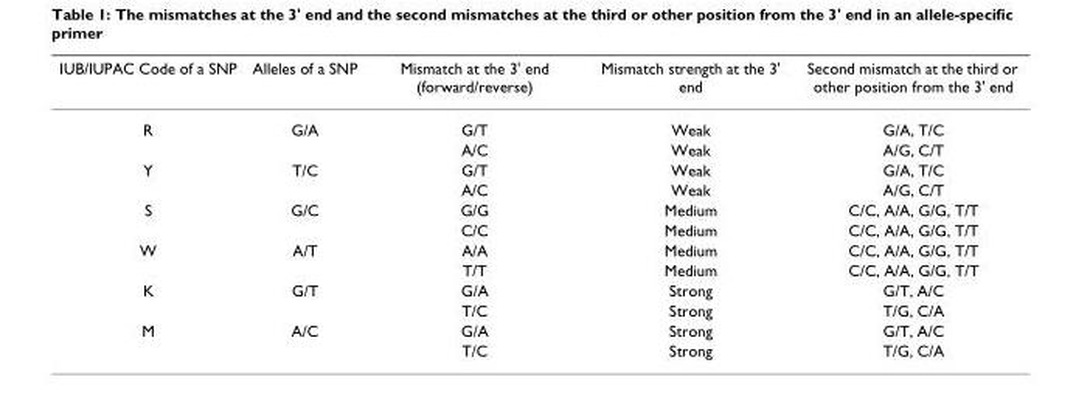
<table><thead><tr><td>IUB/IUPAC Code of a SNP</td><td>Alleles of a SNP</td><td>Mismatch at the 3&#x27; end (forward/reverse)</td><td>Mismatch strength at the 3&#x27; end</td><td>Second mismatch at the third or other position from the 3&#x27; end</td></tr></thead><tbody><tr><td rowspan="2">R</td><td>G/A</td><td>G/T</td><td>Weak</td><td>G/A, T/C</td></tr><tr><td></td><td>A/C</td><td>Weak</td><td>A/G, C/T</td></tr><tr><td rowspan="2">Y</td><td>T/C</td><td>G/T</td><td>Weak</td><td>G/A, T/C</td></tr><tr><td></td><td>A/C</td><td>Weak</td><td>A/G, C/T</td></tr><tr><td rowspan="2">S</td><td>G/C</td><td>G/G</td><td>Medium</td><td>C/C, A/A, G/G, T/T</td></tr><tr><td></td><td>C/C</td><td>Medium</td><td>C/C, A/A, G/G, T/T</td></tr><tr><td rowspan="2">W</td><td>A/T</td><td>A/A</td><td>Medium</td><td>C/C, A/A, G/G, T/T</td></tr><tr><td></td><td>T/T</td><td>Medium</td><td>C/C, A/A, G/G, T/T</td></tr><tr><td rowspan="2">K</td><td>G/T</td><td>G/A</td><td>Strong</td><td>G/T, A/C</td></tr><tr><td></td><td>T/C</td><td>Strong</td><td>T/G, C/A</td></tr><tr><td rowspan="2">M</td><td>A/C</td><td>G/A</td><td>Strong</td><td>G/T, A/C</td></tr><tr><td></td><td>T/C</td><td>Strong</td><td>T/G, C/A</td></tr></tbody></table>